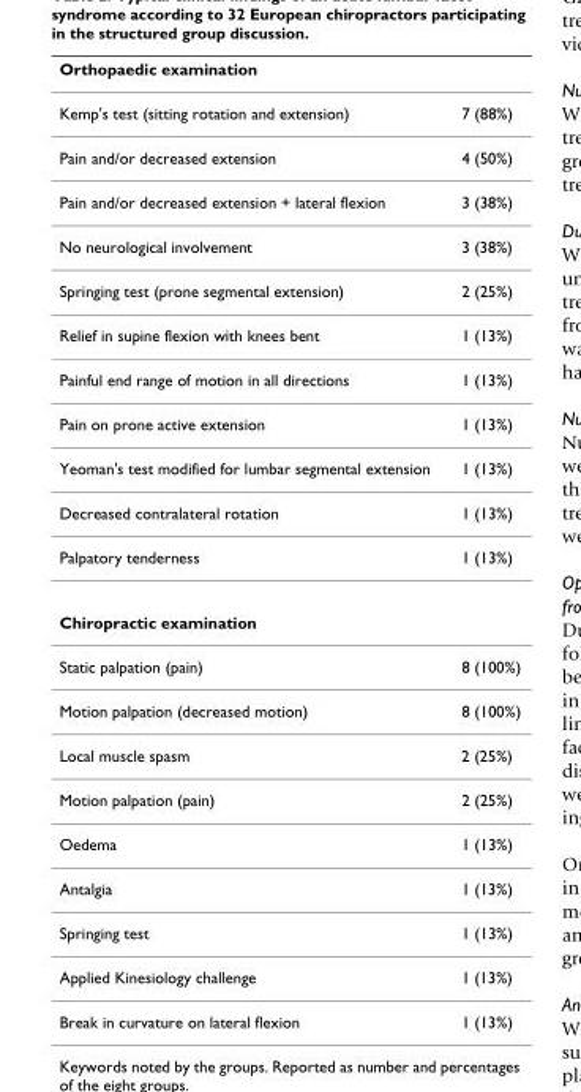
<table><thead><tr><td colspan="2">Orthopaedic examination</td></tr><tr><td>Kemp&#x27;s test (sitting rotation and extension)</td><td>7 (88%)</td></tr></thead><tbody><tr><td>Pain and/or decreased extension</td><td>4 (50%)</td></tr><tr><td>Pain and/or decreased extension + lateral flexion</td><td>3 (38%)</td></tr><tr><td>No neurological involvement</td><td>3 (38%)</td></tr><tr><td>Springing test (prone segmental extension)</td><td>2 (25%)</td></tr><tr><td>Relief in supine flexion with knees bent</td><td>1 (13%)</td></tr><tr><td>Painful end range of motion in all directions</td><td>1 (13%)</td></tr><tr><td>Pain on prone active extension</td><td>1 (13%)</td></tr><tr><td>Yeoman&#x27;s test modified for lumbar segmental extension</td><td>1 (13%)</td></tr><tr><td>Decreased contralateral rotation</td><td>1 (13%)</td></tr><tr><td>Palpatory tenderness</td><td>1 (13%)</td></tr><tr><td colspan="2">Chiropractic examination</td></tr><tr><td>Static palpation (pain)</td><td>8 (100%)</td></tr><tr><td>Motion palpation (decreased motion)</td><td>8 (100%)</td></tr><tr><td>Local muscle spasm</td><td>2 (25%)</td></tr><tr><td>Motion palpation (pain)</td><td>2 (25%)</td></tr><tr><td>Oedema</td><td>1 (13%)</td></tr><tr><td>Antalgia</td><td>1 (13%)</td></tr><tr><td>Springing test</td><td>1 (13%)</td></tr><tr><td>Applied Kinesiology challenge</td><td>1 (13%)</td></tr><tr><td>Break in curvature on lateral flexion</td><td>1 (13%)</td></tr></tbody></table>